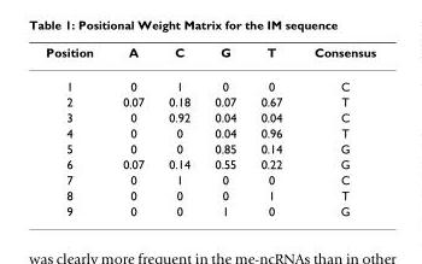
<table><thead><tr><td>Position</td><td>A</td><td>C</td><td>G</td><td>T</td><td>Consensus</td></tr></thead><tbody><tr><td>1</td><td>0</td><td>1</td><td>0</td><td>0</td><td>C</td></tr><tr><td>2</td><td>0.07</td><td>0.18</td><td>0.07</td><td>0.67</td><td>T</td></tr><tr><td>3</td><td>0</td><td>0.92</td><td>0.04</td><td>0.04</td><td>C</td></tr><tr><td>4</td><td>0</td><td>0</td><td>0.04</td><td>0.96</td><td>T</td></tr><tr><td>5</td><td>0</td><td>0</td><td>0.85</td><td>0.14</td><td>G</td></tr><tr><td>6</td><td>0.07</td><td>0.14</td><td>0.55</td><td>0.22</td><td>G</td></tr><tr><td>7</td><td>0</td><td>1</td><td>0</td><td>0</td><td>C</td></tr><tr><td>8</td><td>0</td><td>0</td><td>0</td><td>1</td><td>T</td></tr><tr><td>9</td><td>0</td><td>0</td><td>1</td><td>0</td><td>G</td></tr></tbody></table>